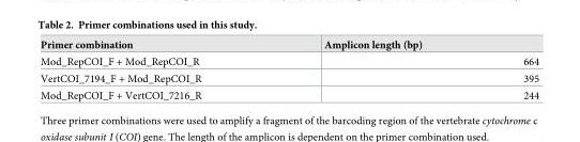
<table><thead><tr><td>Primer combination</td><td>Amplicon length (bp)</td></tr></thead><tbody><tr><td>Mod_RepCOI_F + Mod_RepCOI_R</td><td>664</td></tr><tr><td>VertCOI_7194_F + Mod_RepCOI_R</td><td>395</td></tr><tr><td>Mod_RepCOI_F + VertCOI_7216_R</td><td>244</td></tr></tbody></table>